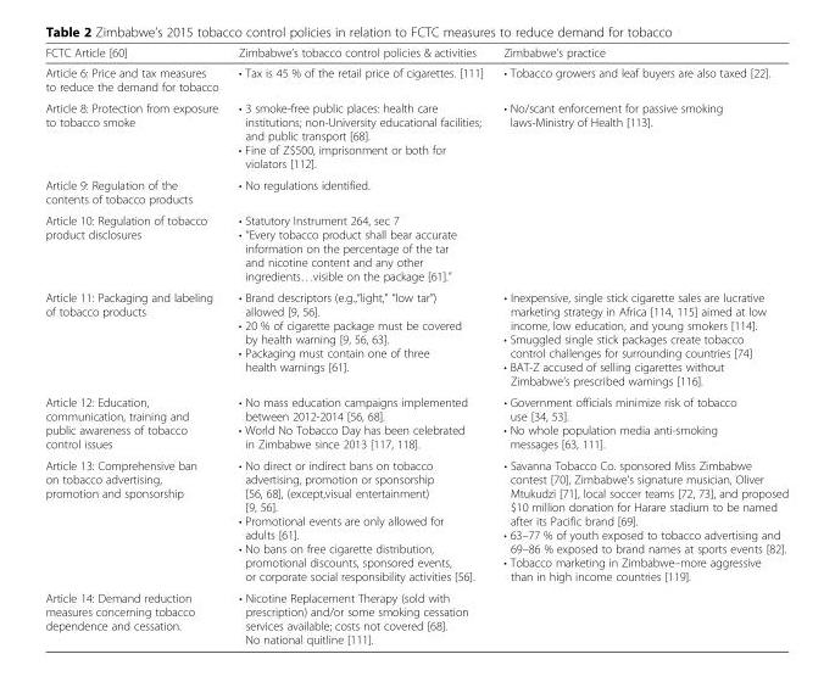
<table><thead><tr><td>FCTC Article [60]</td><td>Zimbabwe’s tobacco control policies &amp; activities</td><td>Zimbabwe’s practice</td></tr></thead><tbody><tr><td>Article 6: Price and tax measures to reduce the demand for tobacco</td><td>• Tax is 45 % of the retail price of cigarettes. [111]</td><td>• Tobacco growers and leaf buyers are also taxed [22].</td></tr><tr><td>Article 8: Protection from exposure to tobacco smoke</td><td>• 3 smoke-free public places: health care institutions; non-University educational facilities; and public transport [68]. • Fine of Z$500, imprisonment or both for violators [112].</td><td>• No/scant enforcement for passive smoking laws-Ministry of Health [113].</td></tr><tr><td>Article 9: Regulation of the contents of tobacco products</td><td>• No regulations identified.</td><td></td></tr><tr><td>Article 10: Regulation of tobacco product disclosures</td><td>• Statutory Instrument 264, sec 7 • “Every tobacco product shall bear accurate information on the percentage of the tar and nicotine content and any other ingredients…visible on the package [61].”</td><td></td></tr><tr><td>Article 11: Packaging and labeling of tobacco products</td><td>• Brand descriptors (e.g.,“light,” “low tar”) allowed [9, 56]. • 20 % of cigarette package must be covered by health warning [9, 56, 63]. • Packaging must contain one of three health warnings [61].</td><td>• Inexpensive, single stick cigarette sales are lucrative marketing strategy in Africa [114, 115] aimed at low income, low education, and young smokers [114]. • Smuggled single stick packages create tobacco control challenges for surrounding countries [74] • BAT-Z accused of selling cigarettes without Zimbabwe’s prescribed warnings [116].</td></tr><tr><td>Article 12: Education, communication, training and public awareness of tobacco control issues</td><td>• No mass education campaigns implemented between 2012-2014 [56, 68]. • World No Tobacco Day has been celebrated in Zimbabwe since 2013 [117, 118].</td><td>• Government officials minimize risk of tobacco use [34, 53]. • No whole population media anti-smoking messages [63, 111].</td></tr><tr><td>Article 13: Comprehensive ban on tobacco advertising, promotion and sponsorship</td><td>• No direct or indirect bans on tobacco advertising, promotion or sponsorship [56, 68], (except,visual entertainment) [9, 56]. • Promotional events are only allowed for adults [61]. • No bans on free cigarette distribution, promotional discounts, sponsored events, or corporate social responsibility activities [56].</td><td>• Savanna Tobacco Co. sponsored Miss Zimbabwe contest [70], Zimbabwe’s signature musician, Oliver Mtukudzi [71], local soccer teams [72, 73], and proposed $10 million donation for Harare stadium to be named after its Pacific brand [69]. • 63–77 % of youth exposed to tobacco advertising and 69–86 % exposed to brand names at sports events [82]. • Tobacco marketing in Zimbabwe–more aggressive than in high income countries [119].</td></tr><tr><td>Article 14: Demand reduction measures concerning tobacco dependence and cessation.</td><td>• Nicotine Replacement Therapy (sold with prescription) and/or some smoking cessation services available; costs not covered [68]. No national quitline [111].</td><td></td></tr></tbody></table>